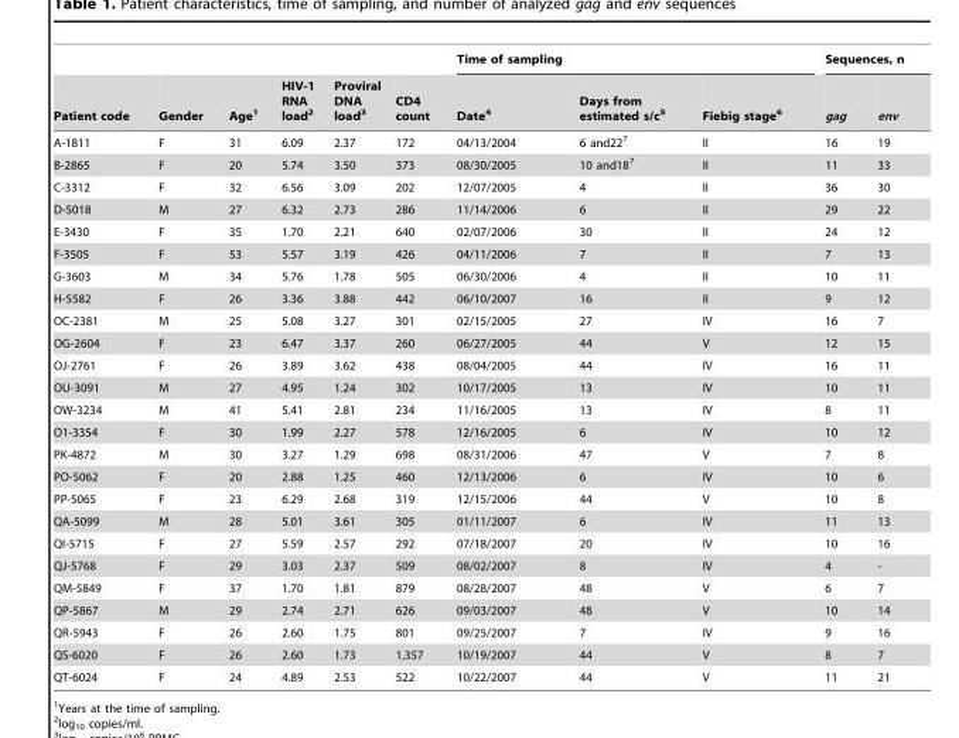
<table><thead><tr><td rowspan="2">Patient code</td><td rowspan="2">Gender</td><td rowspan="2">Age<sup>1</sup></td><td rowspan="2">HIV-1 RNA load<sup>2</sup></td><td rowspan="2">Proviral DNA load<sup>3</sup></td><td rowspan="2">CD4 count</td><td colspan="3">Time of sampling</td><td colspan="2">Sequences, n</td></tr><tr><td>Date<sup>4</sup></td><td>Days from estimated s/c<sup>5</sup></td><td>Fiebig stage<sup>6</sup></td><td>gag</td><td>env</td></tr></thead><tbody><tr><td>A-1811</td><td>F</td><td>31</td><td>6.09</td><td>2.37</td><td>172</td><td>04/13/2004</td><td>6 and22<sup>7</sup></td><td>II</td><td>16</td><td>19</td></tr><tr><td>B-2865</td><td>F</td><td>20</td><td>5.74</td><td>3.50</td><td>373</td><td>08/30/2005</td><td>10 and18<sup>7</sup></td><td>II</td><td>11</td><td>33</td></tr><tr><td>C-3312</td><td>F</td><td>32</td><td>6.56</td><td>3.09</td><td>202</td><td>12/07/2005</td><td>4</td><td>II</td><td>36</td><td>30</td></tr><tr><td>D-5018</td><td>M</td><td>27</td><td>6.32</td><td>2.73</td><td>286</td><td>11/14/2006</td><td>6</td><td>II</td><td>29</td><td>22</td></tr><tr><td>E-3430</td><td>F</td><td>35</td><td>1.70</td><td>2.21</td><td>640</td><td>02/07/2006</td><td>30</td><td>II</td><td>24</td><td>12</td></tr><tr><td>F-3505</td><td>F</td><td>53</td><td>5.57</td><td>3.19</td><td>426</td><td>04/11/2006</td><td>7</td><td>II</td><td>7</td><td>13</td></tr><tr><td>G-3603</td><td>M</td><td>34</td><td>5.76</td><td>1.78</td><td>505</td><td>06/30/2006</td><td>4</td><td>II</td><td>10</td><td>11</td></tr><tr><td>H-5582</td><td>F</td><td>26</td><td>3.36</td><td>3.88</td><td>442</td><td>06/10/2007</td><td>16</td><td>II</td><td>9</td><td>12</td></tr><tr><td>OC-2381</td><td>M</td><td>25</td><td>5.08</td><td>3.27</td><td>301</td><td>02/15/2005</td><td>27</td><td>IV</td><td>16</td><td>7</td></tr><tr><td>OG-2604</td><td>F</td><td>23</td><td>6.47</td><td>3.37</td><td>260</td><td>06/27/2005</td><td>44</td><td>V</td><td>12</td><td>15</td></tr><tr><td>OJ-2761</td><td>F</td><td>26</td><td>3.89</td><td>3.62</td><td>438</td><td>08/04/2005</td><td>44</td><td>IV</td><td>16</td><td>11</td></tr><tr><td>OU-3091</td><td>M</td><td>27</td><td>4.95</td><td>1.24</td><td>302</td><td>10/17/2005</td><td>13</td><td>IV</td><td>10</td><td>11</td></tr><tr><td>OW-3234</td><td>M</td><td>41</td><td>5.41</td><td>2.81</td><td>234</td><td>11/16/2005</td><td>13</td><td>IV</td><td>8</td><td>11</td></tr><tr><td>O1-3354</td><td>F</td><td>30</td><td>1.99</td><td>2.27</td><td>578</td><td>12/16/2005</td><td>6</td><td>IV</td><td>10</td><td>12</td></tr><tr><td>PK-4872</td><td>M</td><td>30</td><td>3.27</td><td>1.29</td><td>698</td><td>08/31/2006</td><td>47</td><td>V</td><td>7</td><td>8</td></tr><tr><td>PO-5062</td><td>F</td><td>20</td><td>2.88</td><td>1.25</td><td>460</td><td>12/13/2006</td><td>6</td><td>IV</td><td>10</td><td>6</td></tr><tr><td>PP-5065</td><td>F</td><td>23</td><td>6.29</td><td>2.68</td><td>319</td><td>12/15/2006</td><td>44</td><td>V</td><td>10</td><td>8</td></tr><tr><td>QA-5099</td><td>M</td><td>28</td><td>5.01</td><td>3.61</td><td>305</td><td>01/11/2007</td><td>6</td><td>IV</td><td>11</td><td>13</td></tr><tr><td>QI-5715</td><td>F</td><td>27</td><td>5.59</td><td>2.57</td><td>292</td><td>07/18/2007</td><td>20</td><td>IV</td><td>10</td><td>16</td></tr><tr><td>QJ-5768</td><td>F</td><td>29</td><td>3.03</td><td>2.37</td><td>509</td><td>08/02/2007</td><td>8</td><td>IV</td><td>4</td><td>-</td></tr><tr><td>QM-5849</td><td>F</td><td>37</td><td>1.70</td><td>1.81</td><td>879</td><td>08/28/2007</td><td>48</td><td>V</td><td>6</td><td>7</td></tr><tr><td>QP-5867</td><td>M</td><td>29</td><td>2.74</td><td>2.71</td><td>626</td><td>09/03/2007</td><td>48</td><td>V</td><td>10</td><td>14</td></tr><tr><td>QR-5943</td><td>F</td><td>26</td><td>2.60</td><td>1.75</td><td>801</td><td>09/25/2007</td><td>7</td><td>IV</td><td>9</td><td>16</td></tr><tr><td>QS-6020</td><td>F</td><td>26</td><td>2.60</td><td>1.73</td><td>1,357</td><td>10/19/2007</td><td>44</td><td>V</td><td>8</td><td>7</td></tr><tr><td>QT-6024</td><td>F</td><td>24</td><td>4.89</td><td>2.53</td><td>522</td><td>10/22/2007</td><td>44</td><td>V</td><td>11</td><td>21</td></tr></tbody></table>